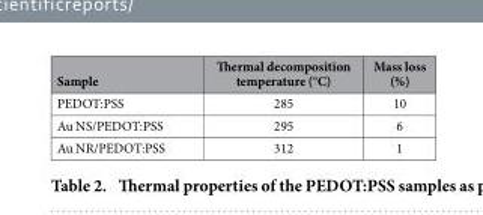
<table><thead><tr><td>Sample</td><td>Thermal decomposition temperature (°C)</td><td>Mass loss (%)</td></tr></thead><tbody><tr><td>PEDOT:PSS</td><td>285</td><td>10</td></tr><tr><td>Au NS/PEDOT:PSS</td><td>295</td><td>6</td></tr><tr><td>Au NR/PEDOT:PSS</td><td>312</td><td>1</td></tr></tbody></table>